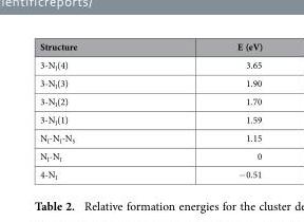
<table><thead><tr><td>Structure</td><td>E (eV)</td></tr></thead><tbody><tr><td>3-N<sub>I</sub>(4)</td><td>3.65</td></tr><tr><td>3-N<sub>I</sub>(3)</td><td>1.90</td></tr><tr><td>3-N<sub>I</sub>(2)</td><td>1.70</td></tr><tr><td>3-N<sub>I</sub>(1)</td><td>1.59</td></tr><tr><td>N<sub>I</sub>-N<sub>I</sub>-N<sub>S</sub></td><td>1.15</td></tr><tr><td>N<sub>I</sub>-N<sub>I</sub></td><td>0</td></tr><tr><td>4-N<sub>I</sub></td><td>− 0.51</td></tr></tbody></table>